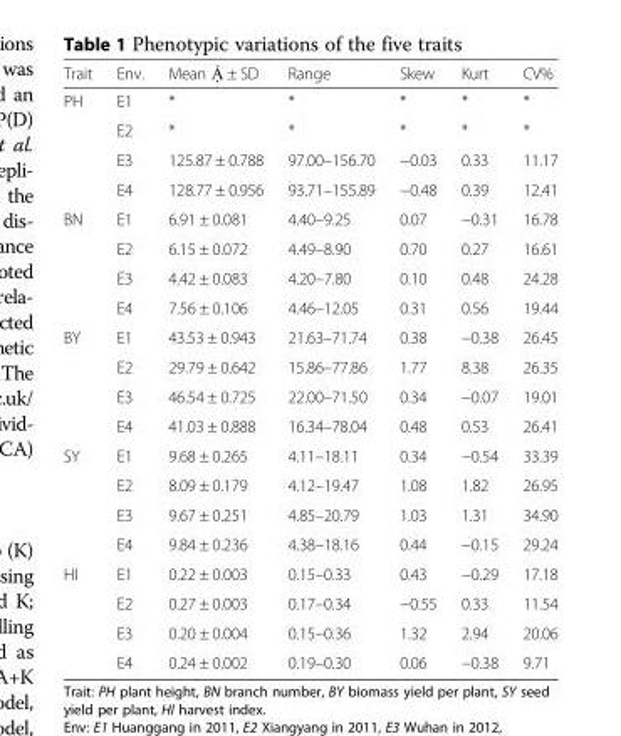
<table><thead><tr><td>Trait</td><td>Env.</td><td>Mean Ậ ± SD</td><td>Range</td><td>Skew</td><td>Kurt</td><td>CV%</td></tr></thead><tbody><tr><td rowspan="4">PH</td><td>E1</td><td>*</td><td>*</td><td>*</td><td>*</td><td>*</td></tr><tr><td>E2</td><td>*</td><td>*</td><td>*</td><td>*</td><td>*</td></tr><tr><td>E3</td><td>125.87 ± 0.788</td><td>97.00–156.70</td><td>−0.03</td><td>0.33</td><td>11.17</td></tr><tr><td>E4</td><td>128.77 ± 0.956</td><td>93.71–155.89</td><td>−0.48</td><td>0.39</td><td>12.41</td></tr><tr><td rowspan="4">BN</td><td>E1</td><td>6.91 ± 0.081</td><td>4.40–9.25</td><td>0.07</td><td>−0.31</td><td>16.78</td></tr><tr><td>E2</td><td>6.15 ± 0.072</td><td>4.49–8.90</td><td>0.70</td><td>0.27</td><td>16.61</td></tr><tr><td>E3</td><td>4.42 ± 0.083</td><td>4.20–7.80</td><td>0.10</td><td>0.48</td><td>24.28</td></tr><tr><td>E4</td><td>7.56 ± 0.106</td><td>4.46–12.05</td><td>0.31</td><td>0.56</td><td>19.44</td></tr><tr><td rowspan="4">BY</td><td>E1</td><td>43.53 ± 0.943</td><td>21.63–71.74</td><td>0.38</td><td>−0.38</td><td>26.45</td></tr><tr><td>E2</td><td>29.79 ± 0.642</td><td>15.86–77.86</td><td>1.77</td><td>8.38</td><td>26.35</td></tr><tr><td>E3</td><td>46.54 ± 0.725</td><td>22.00–71.50</td><td>0.34</td><td>−0.07</td><td>19.01</td></tr><tr><td>E4</td><td>41.03 ± 0.888</td><td>16.34–78.04</td><td>0.48</td><td>0.53</td><td>26.41</td></tr><tr><td rowspan="4">SY</td><td>E1</td><td>9.68 ± 0.265</td><td>4.11–18.11</td><td>0.34</td><td>−0.54</td><td>33.39</td></tr><tr><td>E2</td><td>8.09 ± 0.179</td><td>4.12–19.47</td><td>1.08</td><td>1.82</td><td>26.95</td></tr><tr><td>E3</td><td>9.67 ± 0.251</td><td>4.85–20.79</td><td>1.03</td><td>1.31</td><td>34.90</td></tr><tr><td>E4</td><td>9.84 ± 0.236</td><td>4.38–18.16</td><td>0.44</td><td>−0.15</td><td>29.24</td></tr><tr><td rowspan="4">HI</td><td>E1</td><td>0.22 ± 0.003</td><td>0.15–0.33</td><td>0.43</td><td>−0.29</td><td>17.18</td></tr><tr><td>E2</td><td>0.27 ± 0.003</td><td>0.17–0.34</td><td>−0.55</td><td>0.33</td><td>11.54</td></tr><tr><td>E3</td><td>0.20 ± 0.004</td><td>0.15–0.36</td><td>1.32</td><td>2.94</td><td>20.06</td></tr><tr><td>E4</td><td>0.24 ± 0.002</td><td>0.19–0.30</td><td>0.06</td><td>−0.38</td><td>9.71</td></tr></tbody></table>